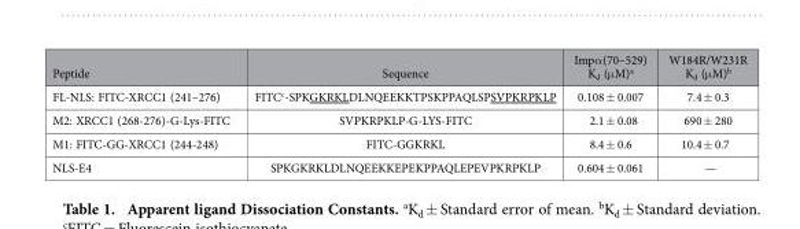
<table><thead><tr><td>Peptide</td><td>Sequence</td><td>Impα (70–529) K<sub>d</sub> (μ M)<sup>a</sup></td><td>W184R/W231R K<sub>d</sub> (μ M)<sup>b</sup></td></tr></thead><tbody><tr><td>FL-NLS: FITC-XRCC1 (241–276)</td><td>FITC<sup>c</sup>-SPKGKRKLDLNQEEKKTPSKPPAQLSPSVPKRPKLP</td><td>0.108 ± 0.007</td><td>7.4 ± 0.3</td></tr><tr><td>M2: XRCC1 (268-276)-G-Lys-FITC</td><td>SVPKRPKLP-G-LYS-FITC</td><td>2.1 ± 0.08</td><td>690 ± 280</td></tr><tr><td>M1: FITC-GG-XRCC1 (244-248)</td><td>FITC-GGKRKL</td><td>8.4 ± 0.6</td><td>10.4 ± 0.7</td></tr><tr><td>NLS-E4</td><td>SPKGKRKLDLNQEEKKEPEKPPAQLEPEVPKRPKLP</td><td>0.604 ± 0.061</td><td>—</td></tr></tbody></table>